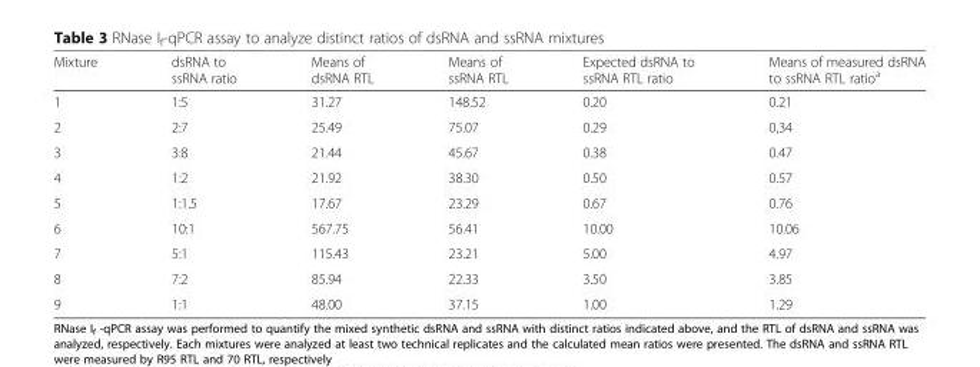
<table><thead><tr><td>Mixture</td><td>dsRNA to ssRNA ratio</td><td>Means of dsRNA RTL</td><td>Means of ssRNA RTL</td><td>Expected dsRNA to ssRNA RTL ratio</td><td>Means of measured dsRNA to ssRNA RTL ratio<sup>a</sup></td></tr></thead><tbody><tr><td>1</td><td>1:5</td><td>31.27</td><td>148.52</td><td>0.20</td><td>0.21</td></tr><tr><td>2</td><td>2:7</td><td>25.49</td><td>75.07</td><td>0.29</td><td>0,34</td></tr><tr><td>3</td><td>3:8</td><td>21.44</td><td>45.67</td><td>0.38</td><td>0.47</td></tr><tr><td>4</td><td>1:2</td><td>21.92</td><td>38.30</td><td>0.50</td><td>0.57</td></tr><tr><td>5</td><td>1:1.5</td><td>17.67</td><td>23.29</td><td>0.67</td><td>0.76</td></tr><tr><td>6</td><td>10:1</td><td>567.75</td><td>56.41</td><td>10.00</td><td>10.06</td></tr><tr><td>7</td><td>5:1</td><td>115.43</td><td>23.21</td><td>5.00</td><td>4.97</td></tr><tr><td>8</td><td>7:2</td><td>85.94</td><td>22.33</td><td>3.50</td><td>3.85</td></tr><tr><td>9</td><td>1:1</td><td>48.00</td><td>37.15</td><td>1.00</td><td>1.29</td></tr></tbody></table>